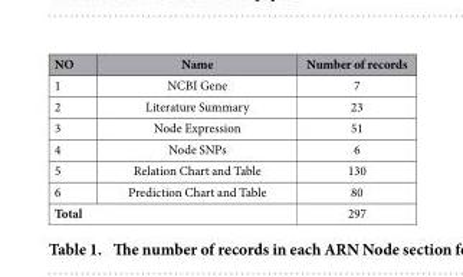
<table><thead><tr><td>NO</td><td>Name</td><td>Number of records</td></tr></thead><tbody><tr><td>1</td><td>NCBI Gene</td><td>7</td></tr><tr><td>2</td><td>Literature Summary</td><td>23</td></tr><tr><td>3</td><td>Node Expression</td><td>51</td></tr><tr><td>4</td><td>Node SNPs</td><td>6</td></tr><tr><td>5</td><td>Relation Chart and Table</td><td>130</td></tr><tr><td>6</td><td>Prediction Chart and Table</td><td>80</td></tr><tr><td colspan="2">Total</td><td>297</td></tr></tbody></table>